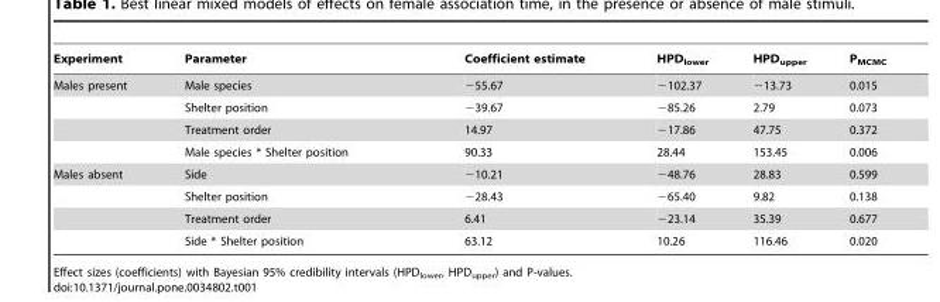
<table><thead><tr><td>Experiment</td><td>Parameter</td><td>Coefficient estimate</td><td>HPD<sub>lower</sub></td><td>HPD<sub>upper</sub></td><td>P<sub>MCMC</sub></td></tr></thead><tbody><tr><td rowspan="4">Males present</td><td>Male species</td><td>−55.67</td><td>−102.37</td><td>−13.73</td><td>0.015</td></tr><tr><td>Shelter position</td><td>−39.67</td><td>−85.26</td><td>2.79</td><td>0.073</td></tr><tr><td>Treatment order</td><td>14.97</td><td>−17.86</td><td>47.75</td><td>0.372</td></tr><tr><td>Male species * Shelter position</td><td>90.33</td><td>28.44</td><td>153.45</td><td>0.006</td></tr><tr><td rowspan="4">Males absent</td><td>Side</td><td>−10.21</td><td>−48.76</td><td>28.83</td><td>0.599</td></tr><tr><td>Shelter position</td><td>−28.43</td><td>−65.40</td><td>9.82</td><td>0.138</td></tr><tr><td>Treatment order</td><td>6.41</td><td>−23.14</td><td>35.39</td><td>0.677</td></tr><tr><td>Side * Shelter position</td><td>63.12</td><td>10.26</td><td>116.46</td><td>0.020</td></tr></tbody></table>